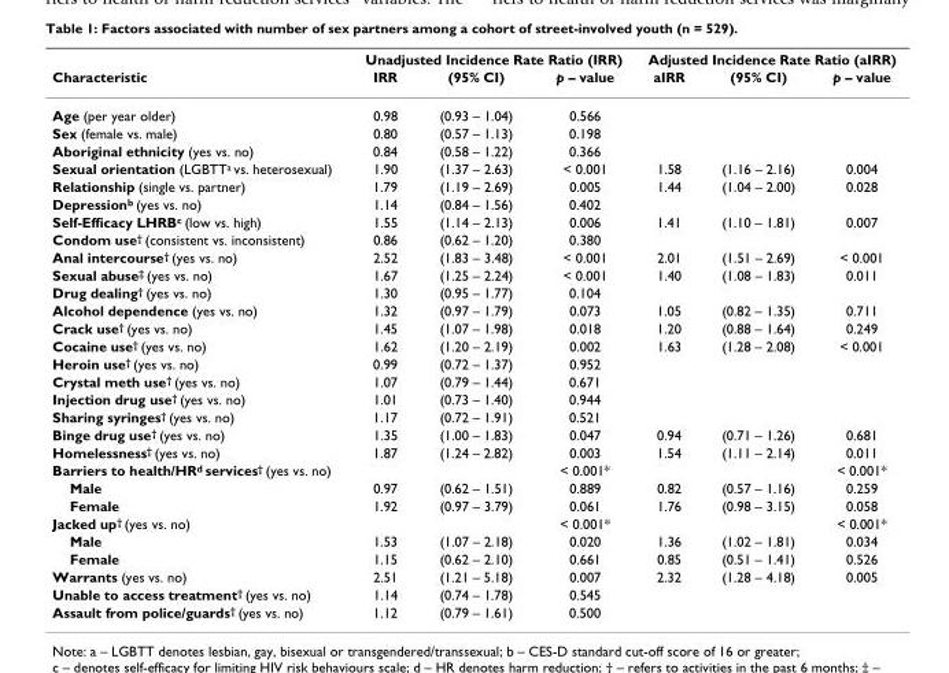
<table><thead><tr><td rowspan="2">Characteristic</td><td colspan="3">Unadjusted Incidence Rate Ratio (IRR)</td><td colspan="3">Adjusted Incidence Rate Ratio (aIRR)</td></tr><tr><td>IRR</td><td>(95% CI)</td><td>p – value</td><td>aIRR</td><td>(95% CI)</td><td>p – value</td></tr></thead><tbody><tr><td>Age (per year older)</td><td>0.98</td><td>(0.93 – 1.04)</td><td>0.566</td><td></td><td></td><td></td></tr><tr><td>Sex (female vs. male)</td><td>0.80</td><td>(0.57 – 1.13)</td><td>0.198</td><td></td><td></td><td></td></tr><tr><td>Aboriginal ethnicity (yes vs. no)</td><td>0.84</td><td>(0.58 – 1.22)</td><td>0.366</td><td></td><td></td><td></td></tr><tr><td>Sexual orientation (LGBTT<sup>a</sup> vs. heterosexual)</td><td>1.90</td><td>(1.37 – 2.63)</td><td>&lt; 0.001</td><td>1.58</td><td>(1.16 – 2.16)</td><td>0.004</td></tr><tr><td>Relationship (single vs. partner)</td><td>1.79</td><td>(1.19 – 2.69)</td><td>0.005</td><td>1.44</td><td>(1.04 – 2.00)</td><td>0.028</td></tr><tr><td>Depression<sup>b</sup> (yes vs. no)</td><td>1.14</td><td>(0.84 – 1.56)</td><td>0.402</td><td></td><td></td><td></td></tr><tr><td>Self-Efficacy LHRB<sup>c</sup> (low vs. high)</td><td>1.55</td><td>(1.14 – 2.13)</td><td>0.006</td><td>1.41</td><td>(1.10 – 1.81)</td><td>0.007</td></tr><tr><td>Condom use<sup>†</sup> (consistent vs. inconsistent)</td><td>0.86</td><td>(0.62 – 1.20)</td><td>0.380</td><td></td><td></td><td></td></tr><tr><td>Anal intercourse<sup>†</sup> (yes vs. no)</td><td>2.52</td><td>(1.83 – 3.48)</td><td>&lt; 0.001</td><td>2.01</td><td>(1.51 – 2.69)</td><td>&lt; 0.001</td></tr><tr><td>Sexual abuse<sup>‡</sup> (yes vs. no)</td><td>1.67</td><td>(1.25 – 2.24)</td><td>&lt; 0.001</td><td>1.40</td><td>(1.08 – 1.83)</td><td>0.011</td></tr><tr><td>Drug dealing<sup>†</sup> (yes vs. no)</td><td>1.30</td><td>(0.95 – 1.77)</td><td>0.104</td><td></td><td></td><td></td></tr><tr><td>Alcohol dependence (yes vs. no)</td><td>1.32</td><td>(0.97 – 1.79)</td><td>0.073</td><td>1.05</td><td>(0.82 – 1.35)</td><td>0.711</td></tr><tr><td>Crack use<sup>†</sup> (yes vs. no)</td><td>1.45</td><td>(1.07 – 1.98)</td><td>0.018</td><td>1.20</td><td>(0.88 – 1.64)</td><td>0.249</td></tr><tr><td>Cocaine use<sup>†</sup> (yes vs. no)</td><td>1.62</td><td>(1.20 – 2.19)</td><td>0.002</td><td>1.63</td><td>(1.28 – 2.08)</td><td>&lt; 0.001</td></tr><tr><td>Heroin use<sup>†</sup> (yes vs. no)</td><td>0.99</td><td>(0.72 – 1.37)</td><td>0.952</td><td></td><td></td><td></td></tr><tr><td>Crystal meth use<sup>†</sup> (yes vs. no)</td><td>1.07</td><td>(0.79 – 1.44)</td><td>0.671</td><td></td><td></td><td></td></tr><tr><td>Injection drug use<sup>†</sup> (yes vs. no)</td><td>1.01</td><td>(0.73 – 1.40)</td><td>0.944</td><td></td><td></td><td></td></tr><tr><td>Sharing syringes<sup>†</sup> (yes vs. no)</td><td>1.17</td><td>(0.72 – 1.91)</td><td>0.521</td><td></td><td></td><td></td></tr><tr><td>Binge drug use<sup>†</sup> (yes vs. no)</td><td>1.35</td><td>(1.00 – 1.83)</td><td>0.047</td><td>0.94</td><td>(0.71 – 1.26)</td><td>0.681</td></tr><tr><td>Homelessness<sup>†</sup> (yes vs. no)</td><td>1.87</td><td>(1.24 – 2.82)</td><td>0.003</td><td>1.54</td><td>(1.11 – 2.14)</td><td>0.011</td></tr><tr><td>Barriers to health/HR<sup>d</sup> services<sup>†</sup> (yes vs. no)</td><td></td><td></td><td>&lt; 0.001*</td><td></td><td></td><td>&lt; 0.001*</td></tr><tr><td>Male</td><td>0.97</td><td>(0.62 – 1.51)</td><td>0.889</td><td>0.82</td><td>(0.57 – 1.16)</td><td>0.259</td></tr><tr><td>Female</td><td>1.92</td><td>(0.97 – 3.79)</td><td>0.061</td><td>1.76</td><td>(0.98 – 3.15)</td><td>0.058</td></tr><tr><td>Jacked up<sup>†</sup> (yes vs. no)</td><td></td><td></td><td>&lt; 0.001*</td><td></td><td></td><td>&lt; 0.001*</td></tr><tr><td>Male</td><td>1.53</td><td>(1.07 – 2.18)</td><td>0.020</td><td>1.36</td><td>(1.02 – 1.81)</td><td>0.034</td></tr><tr><td>Female</td><td>1.15</td><td>(0.62 – 2.10)</td><td>0.661</td><td>0.85</td><td>(0.51 – 1.41)</td><td>0.526</td></tr><tr><td>Warrants (yes vs. no)</td><td>2.51</td><td>(1.21 – 5.18)</td><td>0.007</td><td>2.32</td><td>(1.28 – 4.18)</td><td>0.005</td></tr><tr><td>Unable to access treatment<sup>†</sup> (yes vs. no)</td><td>1.14</td><td>(0.74 – 1.78)</td><td>0.545</td><td></td><td></td><td></td></tr><tr><td>Assault from police/guards<sup>†</sup> (yes vs. no)</td><td>1.12</td><td>(0.79 – 1.61)</td><td>0.500</td><td></td><td></td><td></td></tr></tbody></table>